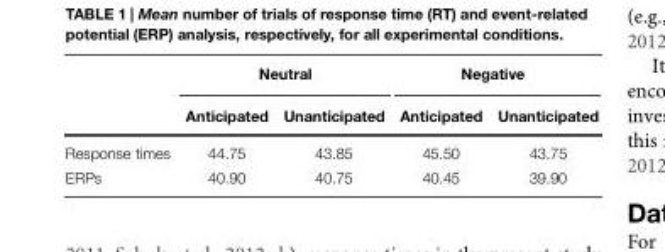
<table><thead><tr><td rowspan="2"></td><td colspan="2">Neutral</td><td colspan="2">Negative</td></tr><tr><td>Anticipated</td><td>Unanticipated</td><td>Anticipated</td><td>Unanticipated</td></tr></thead><tbody><tr><td>Response times</td><td>44.75</td><td>43.85</td><td>45.50</td><td>43.75</td></tr><tr><td>ERPs</td><td>40.90</td><td>40.75</td><td>40.45</td><td>39.90</td></tr></tbody></table>